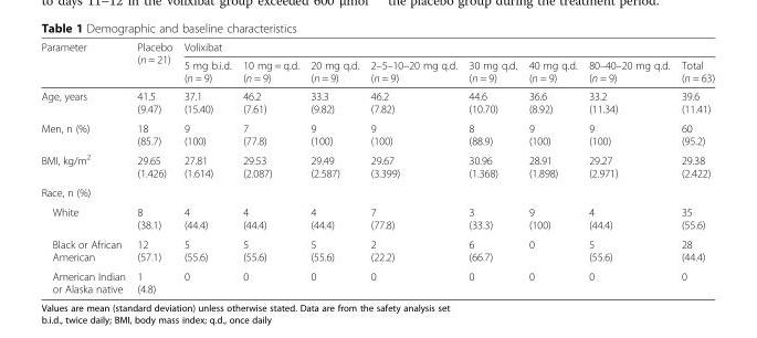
<table><thead><tr><td rowspan="2">Parameter</td><td rowspan="2">Placebo (n = 21)</td><td colspan="8">Volixibat</td></tr><tr><td>5 mg b.i.d. (n = 9)</td><td>10 mg = q.d. (n = 9)</td><td>20 mg q.d. (n = 9)</td><td>2–5–10–20 mg q.d. (n = 9)</td><td>30 mg q.d. (n = 9)</td><td>40 mg q.d. (n = 9)</td><td>80–40–20 mg q.d. (n = 9)</td><td>Total (n = 63)</td></tr></thead><tbody><tr><td>Age, years</td><td>41.5 (9.47)</td><td>37.1 (15.40)</td><td>46.2 (7.61)</td><td>33.3 (9.82)</td><td>46.2 (7.82)</td><td>44.6 (10.70)</td><td>36.6 (8.92)</td><td>33.2 (11.34)</td><td>39.6 (11.41)</td></tr><tr><td>Men, n (%)</td><td>18 (85.7)</td><td>9 (100)</td><td>7 (77.8)</td><td>9 (100)</td><td>9 (100)</td><td>8 (88.9)</td><td>9 (100)</td><td>9 (100)</td><td>60 (95.2)</td></tr><tr><td>BMI, kg/m<sup>2</sup></td><td>29.65 (1.426)</td><td>27.81 (1.614)</td><td>29.53 (2.087)</td><td>29.49 (2.587)</td><td>29.67 (3.399)</td><td>30.96 (1.368)</td><td>28.91 (1.898)</td><td>29.27 (2.971)</td><td>29.38 (2.422)</td></tr><tr><td colspan="10">Race, n (%)</td></tr><tr><td>White</td><td>8 (38.1)</td><td>4 (44.4)</td><td>4 (44.4)</td><td>4 (44.4)</td><td>7 (77.8)</td><td>3 (33.3)</td><td>9 (100)</td><td>4 (44.4)</td><td>35 (55.6)</td></tr><tr><td>Black or African American</td><td>12 (57.1)</td><td>5 (55.6)</td><td>5 (55.6)</td><td>5 (55.6)</td><td>2 (22.2)</td><td>6 (66.7)</td><td>0</td><td>5 (55.6)</td><td>28 (44.4)</td></tr><tr><td>American Indian or Alaska native</td><td>1 (4.8)</td><td>0</td><td>0</td><td>0</td><td>0</td><td>0</td><td>0</td><td>0</td><td>0</td></tr></tbody></table>